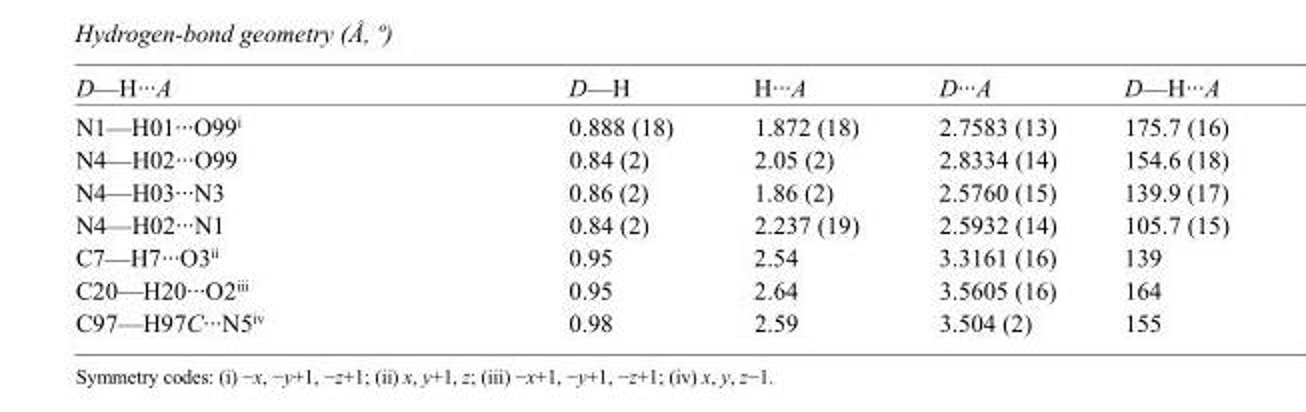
<table><tbody><tr><td>D—H···A</td><td>D—H</td><td>H···A</td><td>D···A</td><td>D—H···A</td></tr><tr><td>N1—H01···O99<sup>i</sup></td><td>0.888 (18)</td><td>1.872 (18)</td><td>2.7583 (13)</td><td>175.7 (16)</td></tr><tr><td>N4—H02···O99</td><td>0.84 (2)</td><td>2.05 (2)</td><td>2.8334 (14)</td><td>154.6 (18)</td></tr><tr><td>N4—H03···N3</td><td>0.86 (2)</td><td>1.86 (2)</td><td>2.5760 (15)</td><td>139.9 (17)</td></tr><tr><td>N4—H02···N1</td><td>0.84 (2)</td><td>2.237 (19)</td><td>2.5932 (14)</td><td>105.7 (15)</td></tr><tr><td>C7—H7···O3<sup>ii</sup></td><td>0.95</td><td>2.54</td><td>3.3161 (16)</td><td>139</td></tr><tr><td>C20—H20···O2<sup>iii</sup></td><td>0.95</td><td>2.64</td><td>3.5605 (16)</td><td>164</td></tr><tr><td>C97—H97C···N5<sup>iv</sup></td><td>0.98</td><td>2.59</td><td>3.504 (2)</td><td>155</td></tr></tbody></table>